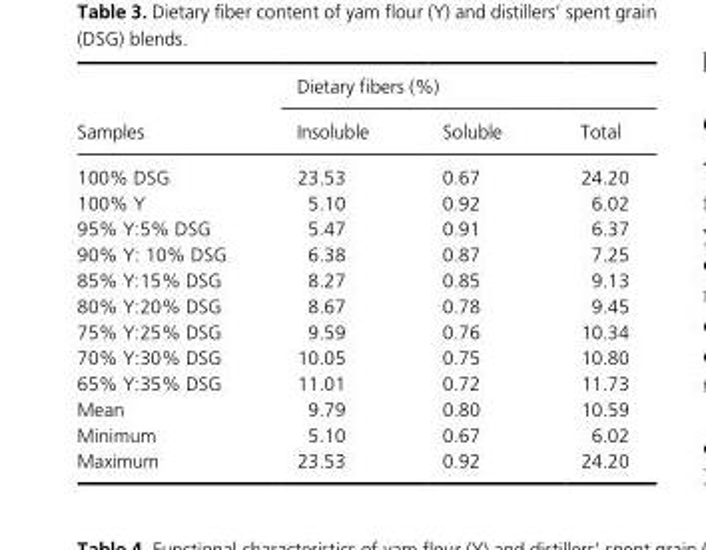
<table><thead><tr><td rowspan="2">Samples</td><td colspan="3">Dietary fibers (%)</td></tr><tr><td>Insoluble</td><td>Soluble</td><td>Total</td></tr></thead><tbody><tr><td>100% DSG</td><td>23.53</td><td>0.67</td><td>24.20</td></tr><tr><td>100% Y</td><td>5.10</td><td>0.92</td><td>6.02</td></tr><tr><td>95% Y:5% DSG</td><td>5.47</td><td>0.91</td><td>6.37</td></tr><tr><td>90% Y: 10% DSG</td><td>6.38</td><td>0.87</td><td>7.25</td></tr><tr><td>85% Y:15% DSG</td><td>8.27</td><td>0.85</td><td>9.13</td></tr><tr><td>80% Y:20% DSG</td><td>8.67</td><td>0.78</td><td>9.45</td></tr><tr><td>75% Y:25% DSG</td><td>9.59</td><td>0.76</td><td>10.34</td></tr><tr><td>70% Y:30% DSG</td><td>10.05</td><td>0.75</td><td>10.80</td></tr><tr><td>65% Y:35% DSG</td><td>11.01</td><td>0.72</td><td>11.73</td></tr><tr><td>Mean</td><td>9.79</td><td>0.80</td><td>10.59</td></tr><tr><td>Minimum</td><td>5.10</td><td>0.67</td><td>6.02</td></tr><tr><td>Maximum</td><td>23.53</td><td>0.92</td><td>24.20</td></tr></tbody></table>